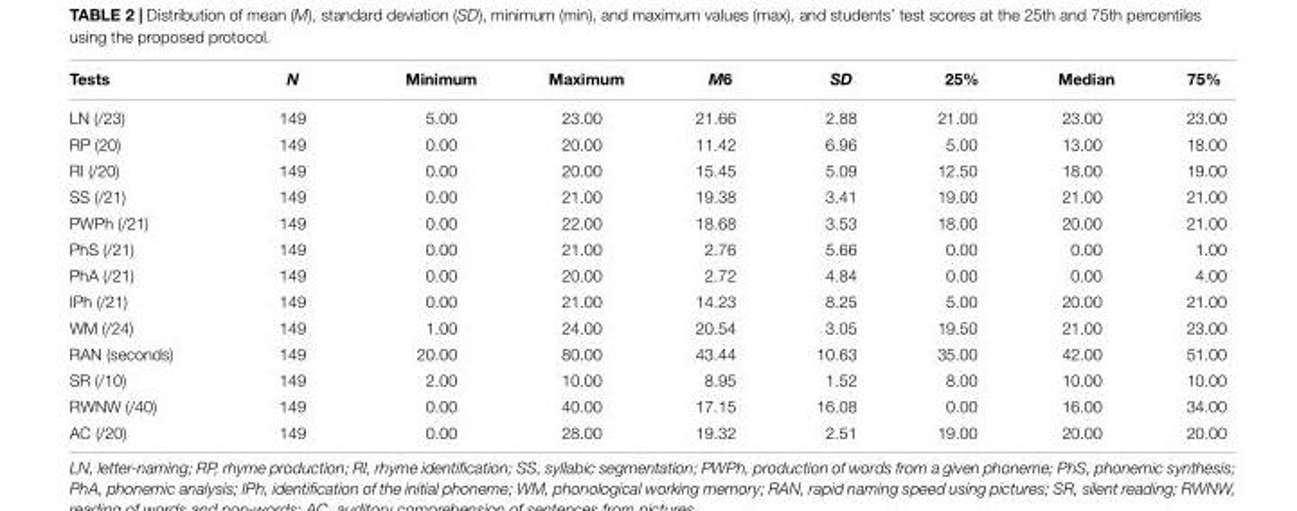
<table><thead><tr><td>Tests</td><td>N</td><td>Minimum</td><td>Maximum</td><td>M6</td><td>SD</td><td>25%</td><td>Median</td><td>75%</td></tr></thead><tbody><tr><td>LN (/23)</td><td>149</td><td>5.00</td><td>23.00</td><td>21.66</td><td>2.88</td><td>21.00</td><td>23.00</td><td>23.00</td></tr><tr><td>RP (20)</td><td>149</td><td>0.00</td><td>20.00</td><td>11.42</td><td>6.96</td><td>5.00</td><td>13.00</td><td>18.00</td></tr><tr><td>RI (/20)</td><td>149</td><td>0.00</td><td>20.00</td><td>15.45</td><td>5.09</td><td>12.50</td><td>18.00</td><td>19.00</td></tr><tr><td>SS (/21)</td><td>149</td><td>0.00</td><td>21.00</td><td>19.38</td><td>3.41</td><td>19.00</td><td>21.00</td><td>21.00</td></tr><tr><td>PWPh (/21)</td><td>149</td><td>0.00</td><td>22.00</td><td>18.68</td><td>3.53</td><td>18.00</td><td>20.00</td><td>21.00</td></tr><tr><td>PhS (/21)</td><td>149</td><td>0.00</td><td>21.00</td><td>2.76</td><td>5.66</td><td>0.00</td><td>0.00</td><td>1.00</td></tr><tr><td>PhA (/21)</td><td>149</td><td>0.00</td><td>20.00</td><td>2.72</td><td>4.84</td><td>0.00</td><td>0.00</td><td>4.00</td></tr><tr><td>IPh (/21)</td><td>149</td><td>0.00</td><td>21.00</td><td>14.23</td><td>8.25</td><td>5.00</td><td>20.00</td><td>21.00</td></tr><tr><td>WM (/24)</td><td>149</td><td>1.00</td><td>24.00</td><td>20.54</td><td>3.05</td><td>19.50</td><td>21.00</td><td>23.00</td></tr><tr><td>RAN (seconds)</td><td>149</td><td>20.00</td><td>80.00</td><td>43.44</td><td>10.63</td><td>35.00</td><td>42.00</td><td>51.00</td></tr><tr><td>SR (/10)</td><td>149</td><td>2.00</td><td>10.00</td><td>8.95</td><td>1.52</td><td>8.00</td><td>10.00</td><td>10.00</td></tr><tr><td>RWNW (/40)</td><td>149</td><td>0.00</td><td>40.00</td><td>17.15</td><td>16.08</td><td>0.00</td><td>16.00</td><td>34.00</td></tr><tr><td>AC (/20)</td><td>149</td><td>0.00</td><td>28.00</td><td>19.32</td><td>2.51</td><td>19.00</td><td>20.00</td><td>20.00</td></tr></tbody></table>